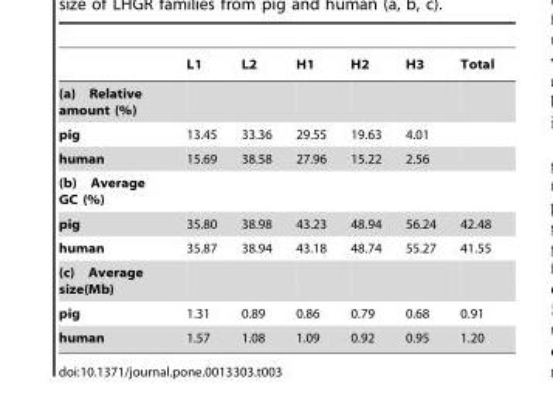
<table><thead><tr><td></td><td>L1</td><td>L2</td><td>H1</td><td>H2</td><td>H3</td><td>Total</td></tr></thead><tbody><tr><td colspan="7">(a) Relative amount (%)</td></tr><tr><td>pig</td><td>13.45</td><td>33.36</td><td>29.55</td><td>19.63</td><td>4.01</td><td></td></tr><tr><td>human</td><td>15.69</td><td>38.58</td><td>27.96</td><td>15.22</td><td>2.56</td><td></td></tr><tr><td colspan="7">(b) Average GC (%)</td></tr><tr><td>pig</td><td>35.80</td><td>38.98</td><td>43.23</td><td>48.94</td><td>56.24</td><td>42.48</td></tr><tr><td>human</td><td>35.87</td><td>38.94</td><td>43.18</td><td>48.74</td><td>55.27</td><td>41.55</td></tr><tr><td colspan="7">(c) Average size(Mb)</td></tr><tr><td>pig</td><td>1.31</td><td>0.89</td><td>0.86</td><td>0.79</td><td>0.68</td><td>0.91</td></tr><tr><td>human</td><td>1.57</td><td>1.08</td><td>1.09</td><td>0.92</td><td>0.95</td><td>1.20</td></tr></tbody></table>